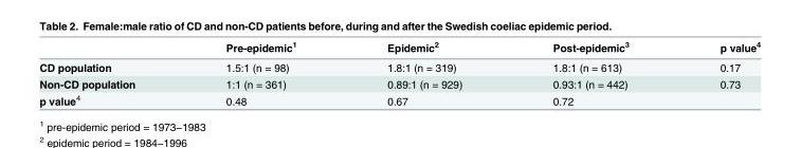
<table><thead><tr><td></td><td>Pre-epidemic<sup>1</sup></td><td>Epidemic<sup>2</sup></td><td>Post-epidemic<sup>3</sup></td><td>p value<sup>4</sup></td></tr></thead><tbody><tr><td>CD population</td><td>1.5:1 (n = 98)</td><td>1.8:1 (n = 319)</td><td>1.8:1 (n = 613)</td><td>0.17</td></tr><tr><td>Non-CD population</td><td>1:1 (n = 361)</td><td>0.89:1 (n = 929)</td><td>0.93:1 (n = 442)</td><td>0.73</td></tr><tr><td>p value<sup>4</sup></td><td>0.48</td><td>0.67</td><td>0.72</td><td></td></tr></tbody></table>